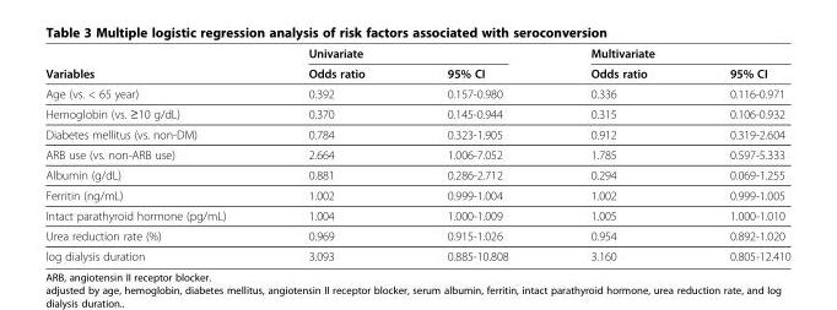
<table><thead><tr><td rowspan="2">Variables</td><td colspan="2">Univariate</td><td colspan="2">Multivariate</td></tr><tr><td>Odds ratio</td><td>95% CI</td><td>Odds ratio</td><td>95% CI</td></tr></thead><tbody><tr><td>Age (vs. &lt; 65 year)</td><td>0.392</td><td>0.157-0.980</td><td>0.336</td><td>0.116-0.971</td></tr><tr><td>Hemoglobin (vs. ≥10 g/dL)</td><td>0.370</td><td>0.145-0.944</td><td>0.315</td><td>0.106-0.932</td></tr><tr><td>Diabetes mellitus (vs. non-DM)</td><td>0.784</td><td>0.323-1.905</td><td>0.912</td><td>0.319-2.604</td></tr><tr><td>ARB use (vs. non-ARB use)</td><td>2.664</td><td>1.006-7.052</td><td>1.785</td><td>0.597-5.333</td></tr><tr><td>Albumin (g/dL)</td><td>0.881</td><td>0.286-2.712</td><td>0.294</td><td>0.069-1.255</td></tr><tr><td>Ferritin (ng/mL)</td><td>1.002</td><td>0.999-1.004</td><td>1.002</td><td>0.999-1.005</td></tr><tr><td>Intact parathyroid hormone (pg/mL)</td><td>1.004</td><td>1.000-1.009</td><td>1.005</td><td>1.000-1.010</td></tr><tr><td>Urea reduction rate (%)</td><td>0.969</td><td>0.915-1.026</td><td>0.954</td><td>0.892-1.020</td></tr><tr><td>log dialysis duration</td><td>3.093</td><td>0.885-10.808</td><td>3.160</td><td>0.805-12.410</td></tr></tbody></table>